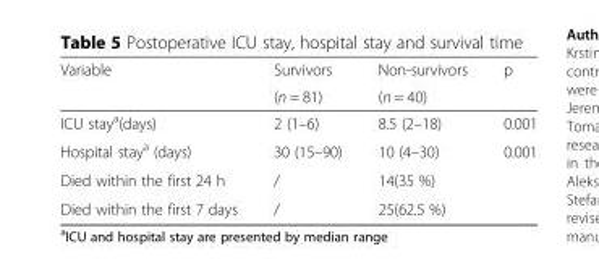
<table><thead><tr><td rowspan="2">Variable</td><td rowspan="2">Survivors (n = 81)</td><td rowspan="2">Non-survivors (n = 40)</td><td rowspan="2">p</td></tr><tr></tr></thead><tbody><tr><td>ICU stay<sup>a</sup>(days)</td><td>2 (1–6)</td><td>8.5 (2–18)</td><td>0.001</td></tr><tr><td>Hospital stay<sup>a</sup> (days)</td><td>30 (15–90)</td><td>10 (4–30)</td><td>0.001</td></tr><tr><td>Died within the first 24 h</td><td>/</td><td>14(35 %)</td><td></td></tr><tr><td>Died within the first 7 days</td><td>/</td><td>25(62.5 %)</td><td></td></tr></tbody></table>